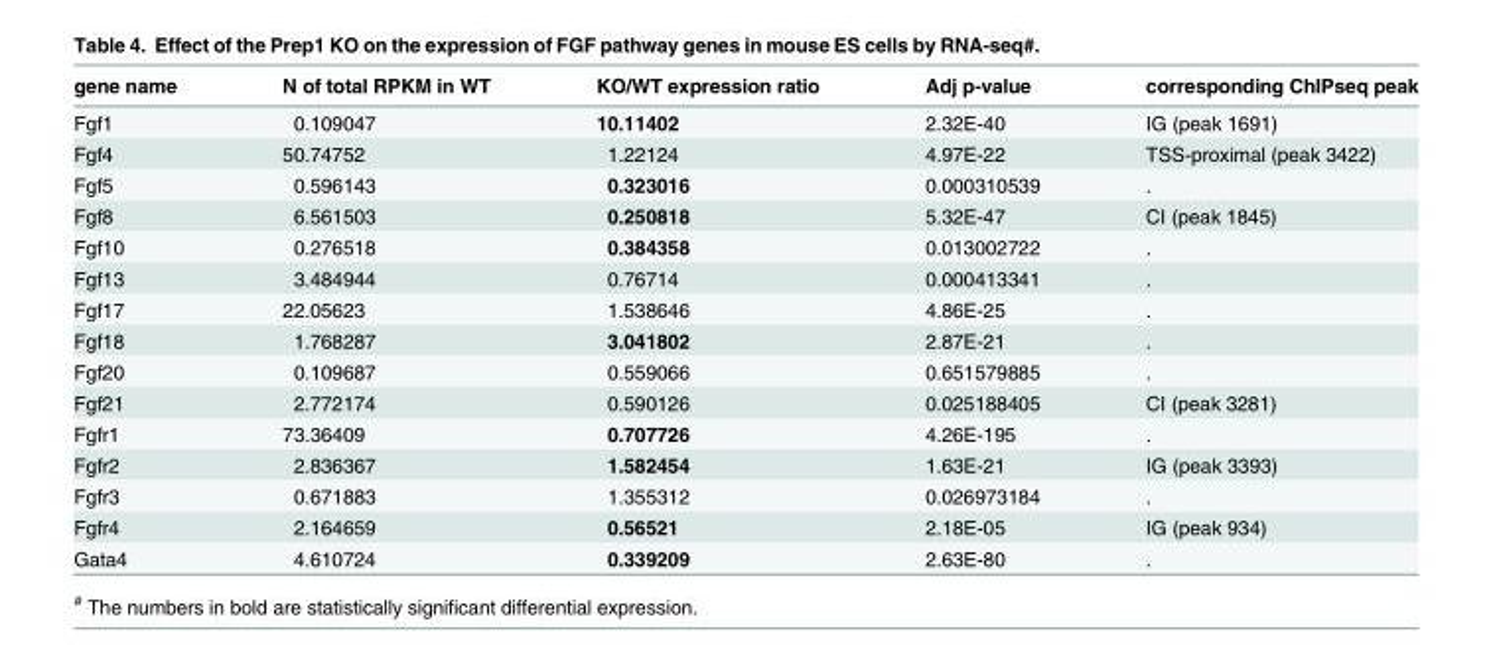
<table><thead><tr><td>gene name</td><td>N of total RPKM in WT</td><td>KO/WT expression ratio</td><td>Adj p-value</td><td>corresponding ChIPseq peak</td></tr></thead><tbody><tr><td>Fgf1</td><td>0.109047</td><td>10.11402</td><td>2.32E-40</td><td>IG (peak 1691)</td></tr><tr><td>Fgf4</td><td>50.74752</td><td>1.22124</td><td>4.97E-22</td><td>TSS-proximal (peak 3422)</td></tr><tr><td>Fgf5</td><td>0.596143</td><td>0.323016</td><td>0.000310539</td><td>.</td></tr><tr><td>Fgf8</td><td>6.561503</td><td>0.250818</td><td>5.32E-47</td><td>CI (peak 1845)</td></tr><tr><td>Fgf10</td><td>0.276518</td><td>0.384358</td><td>0.013002722</td><td>.</td></tr><tr><td>Fgf13</td><td>3.484944</td><td>0.76714</td><td>0.000413341</td><td>.</td></tr><tr><td>Fgf17</td><td>22.05623</td><td>1.538646</td><td>4.86E-25</td><td>.</td></tr><tr><td>Fgf18</td><td>1.768287</td><td>3.041802</td><td>2.87E-21</td><td>.</td></tr><tr><td>Fgf20</td><td>0.109687</td><td>0.559066</td><td>0.651579885</td><td>.</td></tr><tr><td>Fgf21</td><td>2.772174</td><td>0.590126</td><td>0.025188405</td><td>CI (peak 3281)</td></tr><tr><td>Fgfr1</td><td>73.36409</td><td>0.707726</td><td>4.26E-195</td><td>.</td></tr><tr><td>Fgfr2</td><td>2.836367</td><td>1.582454</td><td>1.63E-21</td><td>IG (peak 3393)</td></tr><tr><td>Fgfr3</td><td>0.671883</td><td>1.355312</td><td>0.026973184</td><td>.</td></tr><tr><td>Fgfr4</td><td>2.164659</td><td>0.56521</td><td>2.18E-05</td><td>IG (peak 934)</td></tr><tr><td>Gata4</td><td>4.610724</td><td>0.339209</td><td>2.63E-80</td><td>.</td></tr></tbody></table>